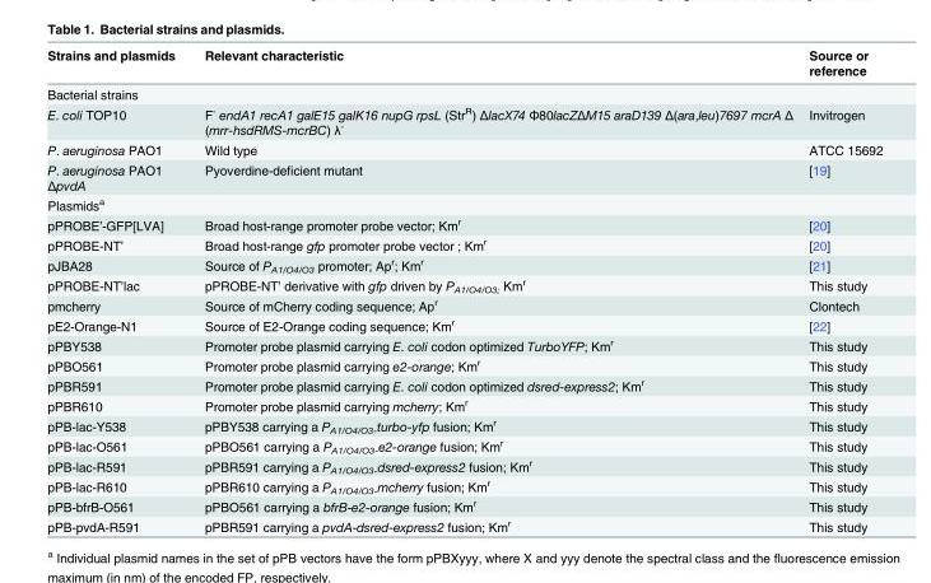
<table><thead><tr><td>Strains and plasmids</td><td>Relevant characteristic</td><td>Source or reference</td></tr></thead><tbody><tr><td colspan="3">Bacterial strains</td></tr><tr><td>E. coli TOP10</td><td>F<sup>-</sup> endA1 recA1 galE15 galK16 nupG rpsL (Str<sup>R</sup>) ΔlacX74 Φ80lacZΔM15 araD139 Δ(ara,leu)7697 mcrA Δ (mrr-hsdRMS-mcrBC) λ<sup>-</sup></td><td>Invitrogen</td></tr><tr><td>P. aeruginosa PAO1</td><td>Wild type</td><td>ATCC 15692</td></tr><tr><td>P. aeruginosa PAO1 ΔpvdA</td><td>Pyoverdine-deficient mutant</td><td>[19]</td></tr><tr><td colspan="3">Plasmids<sup>a</sup></td></tr><tr><td>pPROBE’-GFP[LVA]</td><td>Broad host-range promoter probe vector; Km<sup>r</sup></td><td>[20]</td></tr><tr><td>pPROBE-NT’</td><td>Broad host-range gfp promoter probe vector ; Km<sup>r</sup></td><td>[20]</td></tr><tr><td>pJBA28</td><td>Source of P<sub>A1/O4/O3</sub> promoter; Ap<sup>r</sup>; Km<sup>r</sup></td><td>[21]</td></tr><tr><td>pPROBE-NT’lac</td><td>pPROBE-NT’ derivative with gfp driven by P<sub>A1/O4/O3;</sub> Km<sup>r</sup></td><td>This study</td></tr><tr><td>pmcherry</td><td>Source of mCherry coding sequence; Ap<sup>r</sup></td><td>Clontech</td></tr><tr><td>pE2-Orange-N1</td><td>Source of E2-Orange coding sequence; Km<sup>r</sup></td><td>[22]</td></tr><tr><td>pPBY538</td><td>Promoter probe plasmid carrying E. coli codon optimized TurboYFP; Km<sup>r</sup></td><td>This study</td></tr><tr><td>pPBO561</td><td>Promoter probe plasmid carrying e2-orange; Km<sup>r</sup></td><td>This study</td></tr><tr><td>pPBR591</td><td>Promoter probe plasmid carrying E. coli codon optimized dsred-express2; Km<sup>r</sup></td><td>This study</td></tr><tr><td>pPBR610</td><td>Promoter probe plasmid carrying mcherry; Km<sup>r</sup></td><td>This study</td></tr><tr><td>pPB-lac-Y538</td><td>pPBY538 carrying a P<sub>A1/O4/O3-</sub>turbo-yfp fusion; Km<sup>r</sup></td><td>This study</td></tr><tr><td>pPB-lac-O561</td><td>pPBO561 carrying a P<sub>A1/O4/O3-</sub>e2-orange fusion; Km<sup>r</sup></td><td>This study</td></tr><tr><td>pPB-lac-R591</td><td>pPBR591 carrying a P<sub>A1/O4/O3-</sub>dsred-express2 fusion; Km<sup>r</sup></td><td>This study</td></tr><tr><td>pPB-lac-R610</td><td>pPBR610 carrying a P<sub>A1/O4/O3-</sub>mcherry fusion; Km<sup>r</sup></td><td>This study</td></tr><tr><td>pPB-bfrB-O561</td><td>pPBO561 carrying a bfrB-e2-orange fusion; Km<sup>r</sup></td><td>This study</td></tr><tr><td>pPB-pvdA-R591</td><td>pPBR591 carrying a pvdA-dsred-express2 fusion; Km<sup>r</sup></td><td>This study</td></tr></tbody></table>